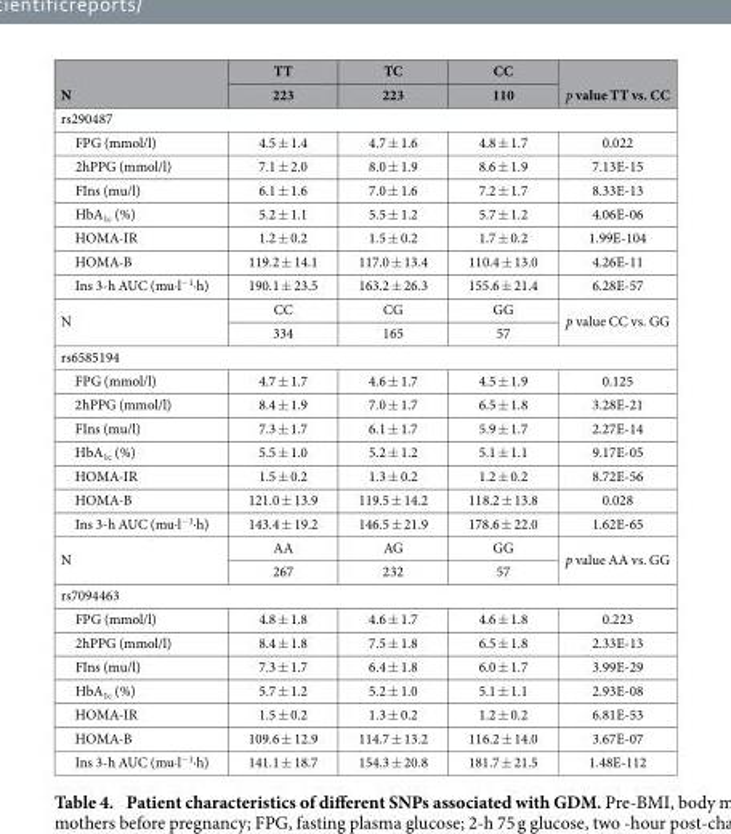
<table><thead><tr><td rowspan="2">N</td><td rowspan="2">TT 223</td><td rowspan="2">TC 223</td><td rowspan="2">CC 110</td><td rowspan="2">p value TT vs. CC</td></tr><tr></tr></thead><tbody><tr><td colspan="5">rs290487</td></tr><tr><td>FPG (mmol/l)</td><td>4.5 ± 1.4</td><td>4.7 ± 1.6</td><td>4.8 ± 1.7</td><td>0.022</td></tr><tr><td>2hPPG (mmol/l)</td><td>7.1 ± 2.0</td><td>8.0 ± 1.9</td><td>8.6 ± 1.9</td><td>7.13E-15</td></tr><tr><td>FIns (mu/l)</td><td>6.1 ± 1.6</td><td>7.0 ± 1.6</td><td>7.2 ± 1.7</td><td>8.33E-13</td></tr><tr><td>HbA<sub>1c</sub> (%)</td><td>5.2 ± 1.1</td><td>5.5 ± 1.2</td><td>5.7 ± 1.2</td><td>4.06E-06</td></tr><tr><td>HOMA-IR</td><td>1.2 ± 0.2</td><td>1.5 ± 0.2</td><td>1.7 ± 0.2</td><td>1.99E-104</td></tr><tr><td>HOMA-B</td><td>119.2 ± 14.1</td><td>117.0 ± 13.4</td><td>110.4 ± 13.0</td><td>4.26E-11</td></tr><tr><td>Ins 3-h AUC (mu·l<sup>−1</sup>·h)</td><td>190.1 ± 23.5</td><td>163.2 ± 26.3</td><td>155.6 ± 21.4</td><td>6.28E-57</td></tr><tr><td rowspan="2">N</td><td>CC</td><td>CG</td><td>GG</td><td rowspan="2">p value CC vs. GG</td></tr><tr><td>334</td><td>165</td><td>57</td></tr><tr><td colspan="5">rs6585194</td></tr><tr><td>FPG (mmol/l)</td><td>4.7 ± 1.7</td><td>4.6 ± 1.7</td><td>4.5 ± 1.9</td><td>0.125</td></tr><tr><td>2hPPG (mmol/l)</td><td>8.4 ± 1.9</td><td>7.0 ± 1.7</td><td>6.5 ± 1.8</td><td>3.28E-21</td></tr><tr><td>FIns (mu/l)</td><td>7.3 ± 1.7</td><td>6.1 ± 1.7</td><td>5.9 ± 1.7</td><td>2.27E-14</td></tr><tr><td>HbA<sub>1c</sub> (%)</td><td>5.5 ± 1.0</td><td>5.2 ± 1.2</td><td>5.1 ± 1.1</td><td>9.17E-05</td></tr><tr><td>HOMA-IR</td><td>1.5 ± 0.2</td><td>1.3 ± 0.2</td><td>1.2 ± 0.2</td><td>8.72E-56</td></tr><tr><td>HOMA-B</td><td>121.0 ± 13.9</td><td>119.5 ± 14.2</td><td>118.2 ± 13.8</td><td>0.028</td></tr><tr><td>Ins 3-h AUC (mu·l<sup>−1</sup>·h)</td><td>143.4 ± 19.2</td><td>146.5 ± 21.9</td><td>178.6 ± 22.0</td><td>1.62E-65</td></tr><tr><td rowspan="2">N</td><td>AA</td><td>AG</td><td>GG</td><td rowspan="2">p value AA vs. GG</td></tr><tr><td>267</td><td>232</td><td>57</td></tr><tr><td colspan="5">rs7094463</td></tr><tr><td>FPG (mmol/l)</td><td>4.8 ± 1.8</td><td>4.6 ± 1.7</td><td>4.6 ± 1.8</td><td>0.223</td></tr><tr><td>2hPPG (mmol/l)</td><td>8.4 ± 1.8</td><td>7.5 ± 1.8</td><td>6.5 ± 1.8</td><td>2.33E-13</td></tr><tr><td>FIns (mu/l)</td><td>7.3 ± 1.7</td><td>6.4 ± 1.8</td><td>6.0 ± 1.7</td><td>3.99E-29</td></tr><tr><td>HbA<sub>1c</sub> (%)</td><td>5.7 ± 1.2</td><td>5.2 ± 1.0</td><td>5.1 ± 1.1</td><td>2.93E-08</td></tr><tr><td>HOMA-IR</td><td>1.5 ± 0.2</td><td>1.3 ± 0.2</td><td>1.2 ± 0.2</td><td>6.81E-53</td></tr><tr><td>HOMA-B</td><td>109.6 ± 12.9</td><td>114.7 ± 13.2</td><td>116.2 ± 14.0</td><td>3.67E-07</td></tr><tr><td>Ins 3-h AUC (mu·l<sup>−1</sup>·h)</td><td>141.1 ± 18.7</td><td>154.3 ± 20.8</td><td>181.7 ± 21.5</td><td>1.48E-112</td></tr></tbody></table>